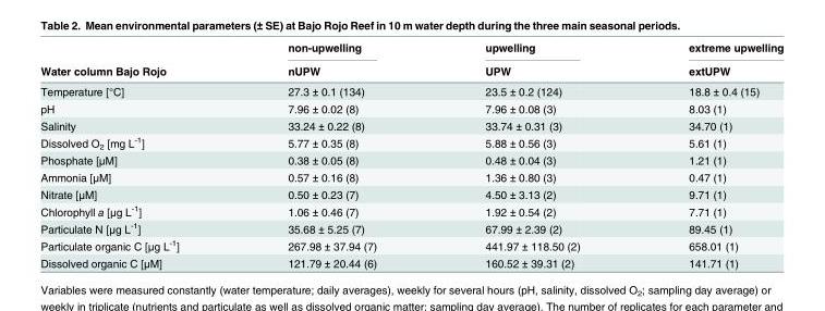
<table><thead><tr><td rowspan="2">Water column Bajo Rojo</td><td rowspan="2">non-upwelling nUPW</td><td rowspan="2">upwelling UPW</td><td rowspan="2">extreme upwelling extUPW</td></tr><tr></tr></thead><tbody><tr><td>Temperature [°C]</td><td>27.3 ± 0.1 (134)</td><td>23.5 ± 0.2 (124)</td><td>18.8 ± 0.4 (15)</td></tr><tr><td>pH</td><td>7.96 ± 0.02 (8)</td><td>7.96 ± 0.08 (3)</td><td>8.03 (1)</td></tr><tr><td>Salinity</td><td>33.24 ± 0.22 (8)</td><td>33.74 ± 0.31 (3)</td><td>34.70 (1)</td></tr><tr><td>Dissolved O<sub>2</sub> [mg L<sup>-1</sup>]</td><td>5.77 ± 0.35 (8)</td><td>5.88 ± 0.56 (3)</td><td>5.61 (1)</td></tr><tr><td>Phosphate [μM]</td><td>0.38 ± 0.05 (8)</td><td>0.48 ± 0.04 (3)</td><td>1.21 (1)</td></tr><tr><td>Ammonia [μM]</td><td>0.57 ± 0.16 (8)</td><td>1.36 ± 0.80 (3)</td><td>0.47 (1)</td></tr><tr><td>Nitrate [μM]</td><td>0.50 ± 0.23 (7)</td><td>4.50 ± 3.13 (2)</td><td>9.71 (1)</td></tr><tr><td>Chlorophyll a [μg L<sup>-1</sup>]</td><td>1.06 ± 0.46 (7)</td><td>1.92 ± 0.54 (2)</td><td>7.71 (1)</td></tr><tr><td>Particulate N [μg L<sup>-1</sup>]</td><td>35.68 ± 5.25 (7)</td><td>67.99 ± 2.39 (2)</td><td>89.45 (1)</td></tr><tr><td>Particulate organic C [μg L<sup>-1</sup>]</td><td>267.98 ± 37.94 (7)</td><td>441.97 ± 118.50 (2)</td><td>658.01 (1)</td></tr><tr><td>Dissolved organic C [μM]</td><td>121.79 ± 20.44 (6)</td><td>160.52 ± 39.31 (2)</td><td>141.71 (1)</td></tr></tbody></table>